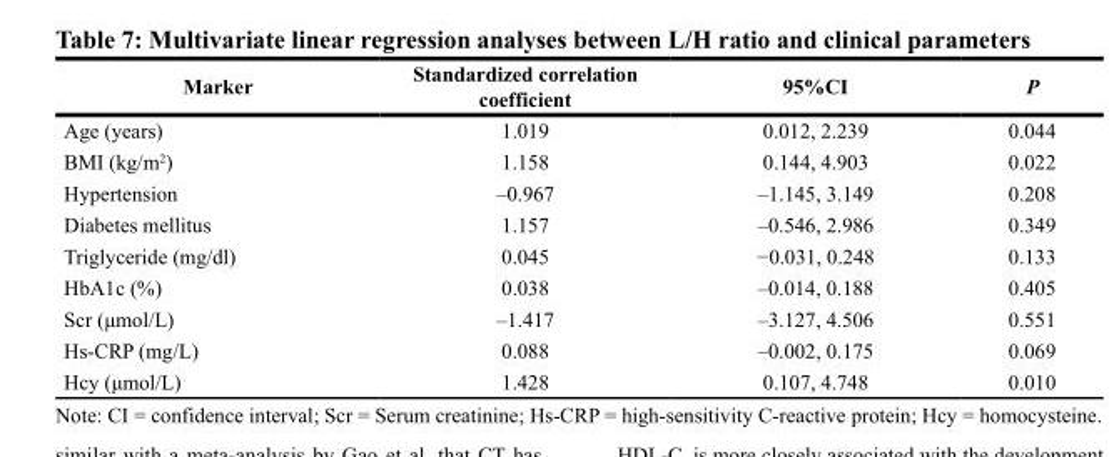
<table><thead><tr><td>Marker</td><td>Standardized correlation coefficient</td><td>95%CI</td><td>P</td></tr></thead><tbody><tr><td>Age (years)</td><td>1.019</td><td>0.012, 2.239</td><td>0.044</td></tr><tr><td>BMI (kg/m<sup>2</sup>)</td><td>1.158</td><td>0.144, 4.903</td><td>0.022</td></tr><tr><td>Hypertension</td><td>–0.967</td><td>–1.145, 3.149</td><td>0.208</td></tr><tr><td>Diabetes mellitus</td><td>1.157</td><td>–0.546, 2.986</td><td>0.349</td></tr><tr><td>Triglyceride (mg/dl)</td><td>0.045</td><td>−0.031, 0.248</td><td>0.133</td></tr><tr><td>HbA1c (%)</td><td>0.038</td><td>–0.014, 0.188</td><td>0.405</td></tr><tr><td>Scr (μmol/L)</td><td>–1.417</td><td>–3.127, 4.506</td><td>0.551</td></tr><tr><td>Hs-CRP (mg/L)</td><td>0.088</td><td>–0.002, 0.175</td><td>0.069</td></tr><tr><td>Hcy (μmol/L)</td><td>1.428</td><td>0.107, 4.748</td><td>0.010</td></tr></tbody></table>